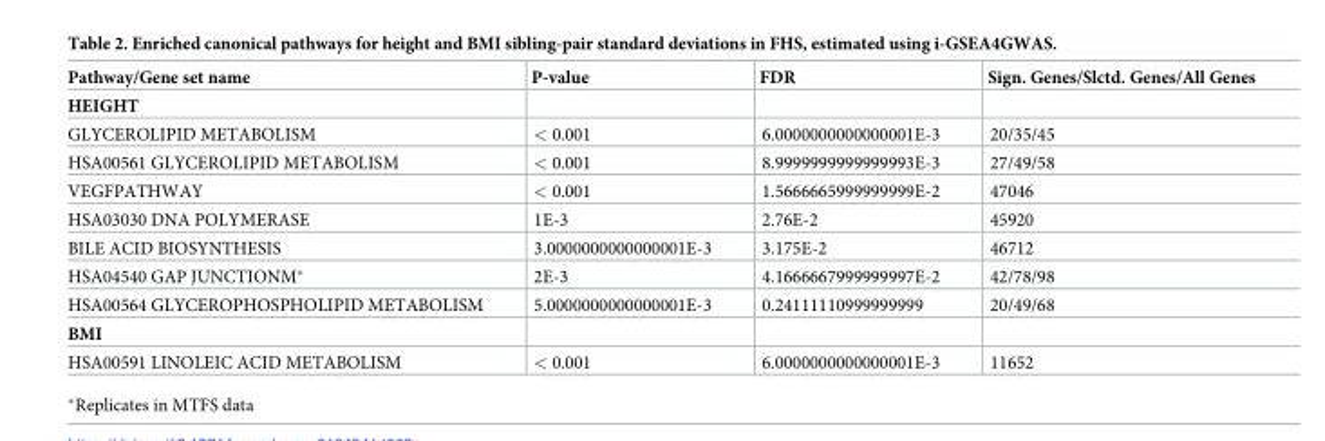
<table><thead><tr><td>Pathway/Gene set name</td><td>P-value</td><td>FDR</td><td>Sign. Genes/Slctd. Genes/All Genes</td></tr></thead><tbody><tr><td colspan="4">HEIGHT</td></tr><tr><td>GLYCEROLIPID METABOLISM</td><td>&lt; 0.001</td><td>6.0000000000000001E-3</td><td>20/35/45</td></tr><tr><td>HSA00561 GLYCEROLIPID METABOLISM</td><td>&lt; 0.001</td><td>8.9999999999999993E-3</td><td>27/49/58</td></tr><tr><td>VEGFPATHWAY</td><td>&lt; 0.001</td><td>1.5666665999999999E-2</td><td>47046</td></tr><tr><td>HSA03030 DNA POLYMERASE</td><td>1E-3</td><td>2.76E-2</td><td>45920</td></tr><tr><td>BILE ACID BIOSYNTHESIS</td><td>3.0000000000000001E-3</td><td>3.175E-2</td><td>46712</td></tr><tr><td>HSA04540 GAP JUNCTIONM*</td><td>2E-3</td><td>4.1666667999999997E-2</td><td>42/78/98</td></tr><tr><td>HSA00564 GLYCEROPHOSPHOLIPID METABOLISM</td><td>5.0000000000000001E-3</td><td>0.24111110999999999</td><td>20/49/68</td></tr><tr><td colspan="4">BMI</td></tr><tr><td>HSA00591 LINOLEIC ACID METABOLISM</td><td>&lt; 0.001</td><td>6.0000000000000001E-3</td><td>11652</td></tr></tbody></table>